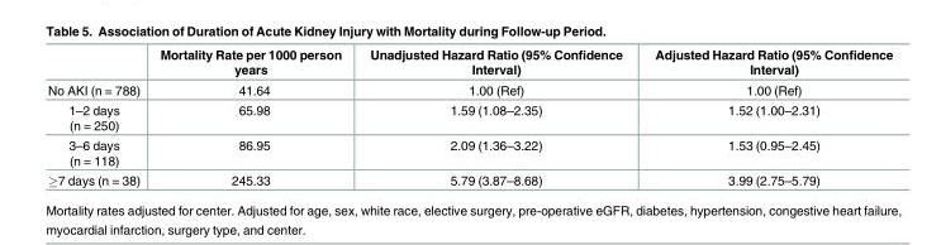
<table><thead><tr><td></td><td>Mortality Rate per 1000 person years</td><td>Unadjusted Hazard Ratio (95% Confidence Interval)</td><td>Adjusted Hazard Ratio (95% Confidence Interval)</td></tr></thead><tbody><tr><td>No AKI (n = 788)</td><td>41.64</td><td>1.00 (Ref)</td><td>1.00 (Ref)</td></tr><tr><td>1–2 days (n = 250)</td><td>65.98</td><td>1.59 (1.08–2.35)</td><td>1.52 (1.00–2.31)</td></tr><tr><td>3–6 days (n = 118)</td><td>86.95</td><td>2.09 (1.36–3.22)</td><td>1.53 (0.95–2.45)</td></tr><tr><td>≥7 days (n = 38)</td><td>245.33</td><td>5.79 (3.87–8.68)</td><td>3.99 (2.75–5.79)</td></tr></tbody></table>